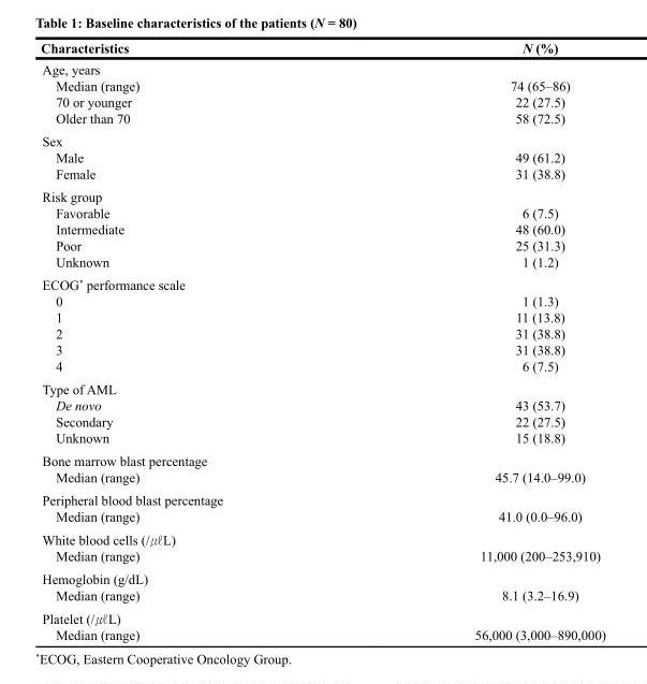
<table><thead><tr><td>Characteristics</td><td>N (%)</td></tr></thead><tbody><tr><td colspan="2">Age, years</td></tr><tr><td>Median (range)</td><td>74 (65–86)</td></tr><tr><td>70 or younger</td><td>22 (27.5)</td></tr><tr><td>Older than 70</td><td>58 (72.5)</td></tr><tr><td colspan="2">Sex</td></tr><tr><td>Male</td><td>49 (61.2)</td></tr><tr><td>Female</td><td>31 (38.8)</td></tr><tr><td colspan="2">Risk group</td></tr><tr><td>Favorable</td><td>6 (7.5)</td></tr><tr><td>Intermediate</td><td>48 (60.0)</td></tr><tr><td>Poor</td><td>25 (31.3)</td></tr><tr><td>Unknown</td><td>1 (1.2)</td></tr><tr><td colspan="2">ECOG* performance scale</td></tr><tr><td>0</td><td>1 (1.3)</td></tr><tr><td>1</td><td>11 (13.8)</td></tr><tr><td>2</td><td>31 (38.8)</td></tr><tr><td>3</td><td>31 (38.8)</td></tr><tr><td>4</td><td>6 (7.5)</td></tr><tr><td colspan="2">Type of AML</td></tr><tr><td>De novo</td><td>43 (53.7)</td></tr><tr><td>Secondary</td><td>22 (27.5)</td></tr><tr><td>Unknown</td><td>15 (18.8)</td></tr><tr><td colspan="2">Bone marrow blast percentage</td></tr><tr><td>Median (range)</td><td>45.7 (14.0–99.0)</td></tr><tr><td colspan="2">Peripheral blood blast percentage</td></tr><tr><td>Median (range)</td><td>41.0 (0.0–96.0)</td></tr><tr><td colspan="2">White blood cells (/㎕L)</td></tr><tr><td>Median (range)</td><td>11,000 (200–253,910)</td></tr><tr><td colspan="2">Hemoglobin (g/dL)</td></tr><tr><td>Median (range)</td><td>8.1 (3.2–16.9)</td></tr><tr><td colspan="2">Platelet (/㎕L)</td></tr><tr><td>Median (range)</td><td>56,000 (3,000–890,000)</td></tr></tbody></table>